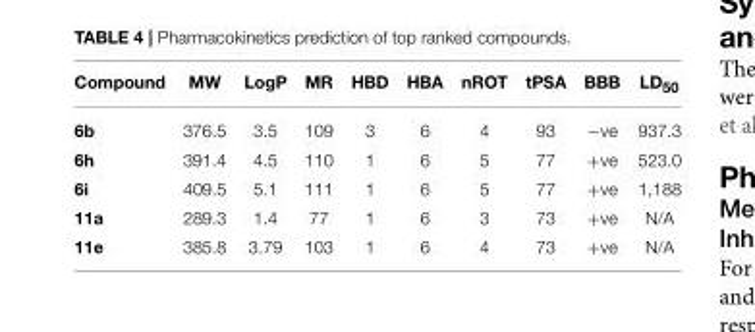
<table><thead><tr><td>Compound</td><td>MW</td><td>LogP</td><td>MR</td><td>HBD</td><td>HBA</td><td>nROT</td><td>tPSA</td><td>BBB</td><td>LD<sub>50</sub></td></tr></thead><tbody><tr><td>6b</td><td>376.5</td><td>3.5</td><td>109</td><td>3</td><td>6</td><td>4</td><td>93</td><td>−ve</td><td>937.3</td></tr><tr><td>6h</td><td>391.4</td><td>4.5</td><td>110</td><td>1</td><td>6</td><td>5</td><td>77</td><td>+ve</td><td>523.0</td></tr><tr><td>6i</td><td>409.5</td><td>5.1</td><td>111</td><td>1</td><td>6</td><td>5</td><td>77</td><td>+ve</td><td>1,188</td></tr><tr><td>11a</td><td>289.3</td><td>1.4</td><td>77</td><td>1</td><td>6</td><td>3</td><td>73</td><td>+ve</td><td>N/A</td></tr><tr><td>11e</td><td>385.8</td><td>3.79</td><td>103</td><td>1</td><td>6</td><td>4</td><td>73</td><td>+ve</td><td>N/A</td></tr></tbody></table>